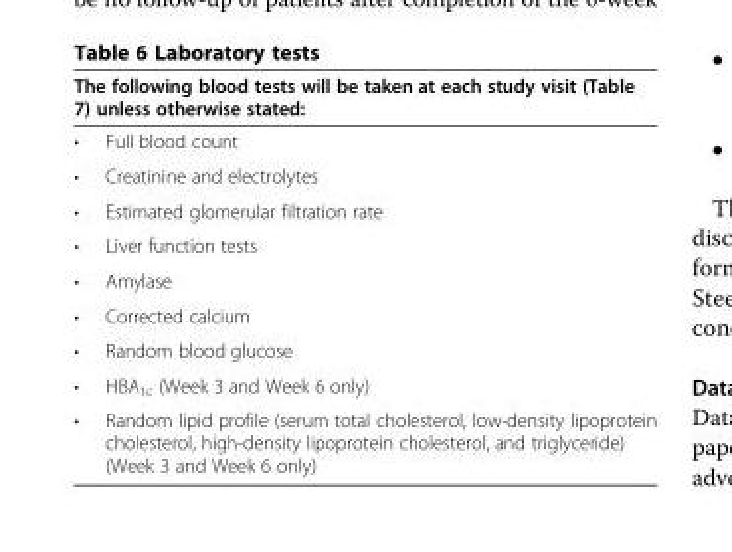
<table><thead><tr><td colspan="2">The following blood tests will be taken at each study visit (Table 7) unless otherwise stated:</td></tr><tr><td>•</td><td>Full blood count</td></tr></thead><tbody><tr><td>•</td><td>Creatinine and electrolytes</td></tr><tr><td>•</td><td>Estimated glomerular filtration rate</td></tr><tr><td>•</td><td>Liver function tests</td></tr><tr><td>•</td><td>Amylase</td></tr><tr><td>•</td><td>Corrected calcium</td></tr><tr><td>•</td><td>Random blood glucose</td></tr><tr><td>•</td><td>HBA<sub>1c</sub> (Week 3 and Week 6 only)</td></tr><tr><td>•</td><td>Random lipid profile (serum total cholesterol, low-density lipoprotein cholesterol, high-density lipoprotein cholesterol, and triglyceride) (Week 3 and Week 6 only)</td></tr></tbody></table>